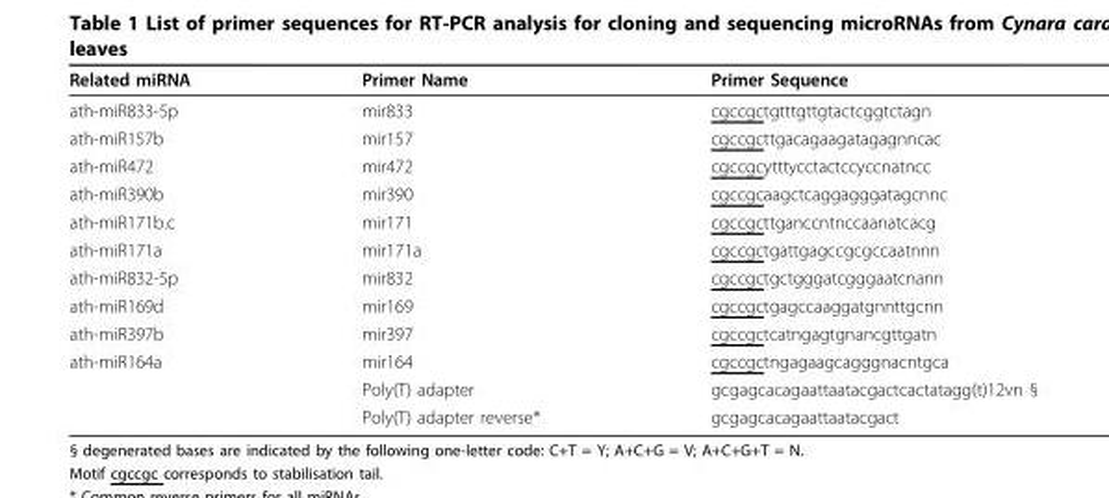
<table><thead><tr><td>Related miRNA</td><td>Primer Name</td><td>Primer Sequence</td></tr></thead><tbody><tr><td>ath-miR833-5p</td><td>mir833</td><td>cgccgctgtttgttgtactcggtctagn</td></tr><tr><td>ath-miR157b</td><td>mir157</td><td>cgccgcttgacagaagatagagnncac</td></tr><tr><td>ath-miR472</td><td>mir472</td><td>cgccgcytttycctactccyccnatncc</td></tr><tr><td>ath-miR390b</td><td>mir390</td><td>cgccgcaagctcaggagggatagcnnc</td></tr><tr><td>ath-miR171b.c</td><td>mir171</td><td>cgccgcttganccntnccaanatcacg</td></tr><tr><td>ath-miR171a</td><td>mir171a</td><td>cgccgctgattgagccgcgccaatnnn</td></tr><tr><td>ath-miR832-5p</td><td>mir832</td><td>cgccgctgctgggatcgggaatcnann</td></tr><tr><td>ath-miR169d</td><td>mir169</td><td>cgccgctgagccaaggatgnnttgcnn</td></tr><tr><td>ath-miR397b</td><td>mir397</td><td>cgccgctcatngagtgnancgttgatn</td></tr><tr><td rowspan="3">ath-miR164a</td><td>mir164</td><td>cgccgctngagaagcagggnacntgca</td></tr><tr><td>Poly(T) adapter</td><td>gcgagcacagaattaatacgactcactatagg(t)12vn §</td></tr><tr><td>Poly(T) adapter reverse*</td><td>gcgagcacagaattaatacgact</td></tr></tbody></table>